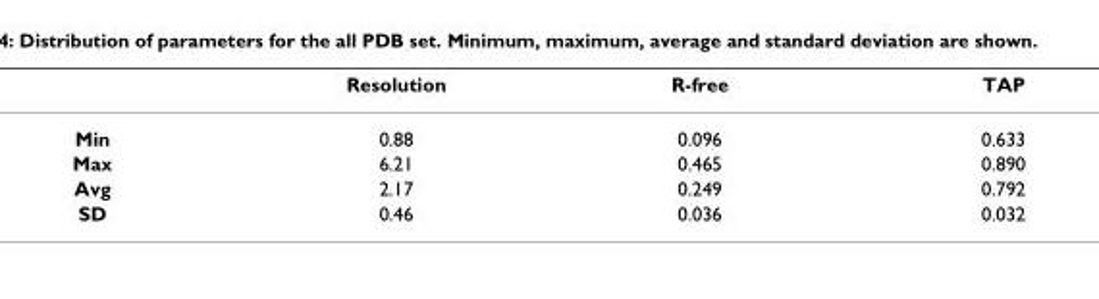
<table><thead><tr><td></td><td>Resolution</td><td>R-free</td><td>TAP</td></tr></thead><tbody><tr><td>Min</td><td>0.88</td><td>0.096</td><td>0.633</td></tr><tr><td>Max</td><td>6.21</td><td>0.465</td><td>0.890</td></tr><tr><td>Avg</td><td>2.17</td><td>0.249</td><td>0.792</td></tr><tr><td>SD</td><td>0.46</td><td>0.036</td><td>0.032</td></tr></tbody></table>